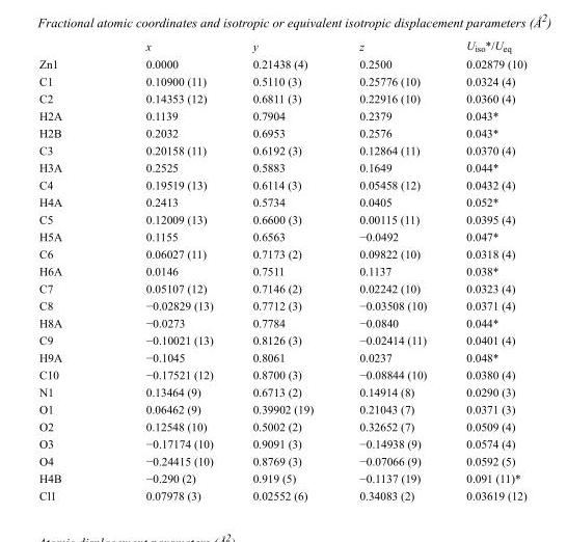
<table><thead><tr><td></td><td>x</td><td>y</td><td>z</td><td>U<sub>iso</sub>*/U<sub>eq</sub></td></tr></thead><tbody><tr><td>Zn1</td><td>0.0000</td><td>0.21438 (4)</td><td>0.2500</td><td>0.02879 (10)</td></tr><tr><td>C1</td><td>0.10900 (11)</td><td>0.5110 (3)</td><td>0.25776 (10)</td><td>0.0324 (4)</td></tr><tr><td>C2</td><td>0.14353 (12)</td><td>0.6811 (3)</td><td>0.22916 (10)</td><td>0.0360 (4)</td></tr><tr><td>H2A</td><td>0.1139</td><td>0.7904</td><td>0.2379</td><td>0.043*</td></tr><tr><td>H2B</td><td>0.2032</td><td>0.6953</td><td>0.2576</td><td>0.043*</td></tr><tr><td>C3</td><td>0.20158 (11)</td><td>0.6192 (3)</td><td>0.12864 (11)</td><td>0.0370 (4)</td></tr><tr><td>H3A</td><td>0.2525</td><td>0.5883</td><td>0.1649</td><td>0.044*</td></tr><tr><td>C4</td><td>0.19519 (13)</td><td>0.6114 (3)</td><td>0.05458 (12)</td><td>0.0432 (4)</td></tr><tr><td>H4A</td><td>0.2413</td><td>0.5734</td><td>0.0405</td><td>0.052*</td></tr><tr><td>C5</td><td>0.12009 (13)</td><td>0.6600 (3)</td><td>0.00115 (11)</td><td>0.0395 (4)</td></tr><tr><td>H5A</td><td>0.1155</td><td>0.6563</td><td>−0.0492</td><td>0.047*</td></tr><tr><td>C6</td><td>0.06027 (11)</td><td>0.7173 (2)</td><td>0.09822 (10)</td><td>0.0318 (4)</td></tr><tr><td>H6A</td><td>0.0146</td><td>0.7511</td><td>0.1137</td><td>0.038*</td></tr><tr><td>C7</td><td>0.05107 (12)</td><td>0.7146 (2)</td><td>0.02242 (10)</td><td>0.0323 (4)</td></tr><tr><td>C8</td><td>−0.02829 (13)</td><td>0.7712 (3)</td><td>−0.03508 (10)</td><td>0.0371 (4)</td></tr><tr><td>H8A</td><td>−0.0273</td><td>0.7784</td><td>−0.0840</td><td>0.044*</td></tr><tr><td>C9</td><td>−0.10021 (13)</td><td>0.8126 (3)</td><td>−0.02414 (11)</td><td>0.0401 (4)</td></tr><tr><td>H9A</td><td>−0.1045</td><td>0.8061</td><td>0.0237</td><td>0.048*</td></tr><tr><td>C10</td><td>−0.17521 (12)</td><td>0.8700 (3)</td><td>−0.08844 (10)</td><td>0.0380 (4)</td></tr><tr><td>N1</td><td>0.13464 (9)</td><td>0.6713 (2)</td><td>0.14914 (8)</td><td>0.0290 (3)</td></tr><tr><td>O1</td><td>0.06462 (9)</td><td>0.39902 (19)</td><td>0.21043 (7)</td><td>0.0371 (3)</td></tr><tr><td>O2</td><td>0.12548 (10)</td><td>0.5002 (2)</td><td>0.32652 (7)</td><td>0.0509 (4)</td></tr><tr><td>O3</td><td>−0.17174 (10)</td><td>0.9091 (3)</td><td>−0.14938 (9)</td><td>0.0574 (4)</td></tr><tr><td>O4</td><td>−0.24415 (10)</td><td>0.8769 (3)</td><td>−0.07066 (9)</td><td>0.0592 (5)</td></tr><tr><td>H4B</td><td>−0.290 (2)</td><td>0.919 (5)</td><td>−0.1137 (19)</td><td>0.091 (11)*</td></tr><tr><td>Cl1</td><td>0.07978 (3)</td><td>0.02552 (6)</td><td>0.34083 (2)</td><td>0.03619 (12)</td></tr></tbody></table>